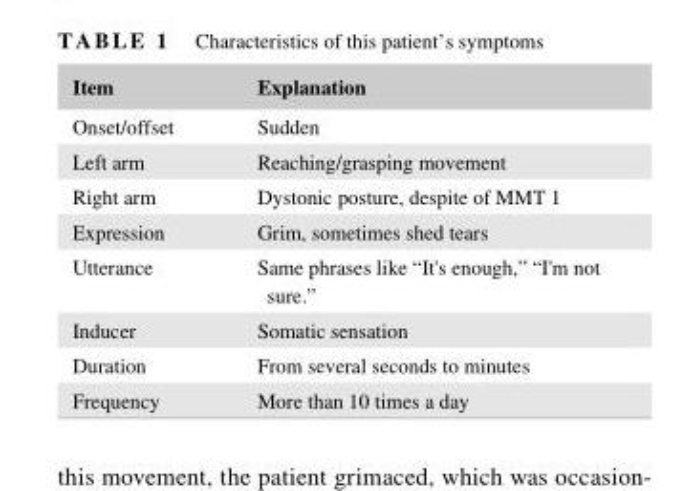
<table><thead><tr><td>Item</td><td>Explanation</td></tr></thead><tbody><tr><td>Onset/offset</td><td>Sudden</td></tr><tr><td>Left arm</td><td>Reaching/grasping movement</td></tr><tr><td>Right arm</td><td>Dystonic posture, despite of MMT 1</td></tr><tr><td>Expression</td><td>Grim, sometimes shed tears</td></tr><tr><td>Utterance</td><td>Same phrases like “It&#x27;s enough,” “I&#x27;m not sure.”</td></tr><tr><td>Inducer</td><td>Somatic sensation</td></tr><tr><td>Duration</td><td>From several seconds to minutes</td></tr><tr><td>Frequency</td><td>More than 10 times a day</td></tr></tbody></table>